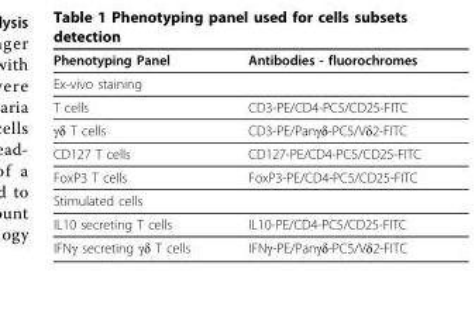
<table><thead><tr><td>Phenotyping Panel</td><td>Antibodies - fluorochromes</td></tr></thead><tbody><tr><td colspan="2">Ex-vivo staining</td></tr><tr><td>T cells</td><td>CD3-PE/CD4-PC5/CD25-FITC</td></tr><tr><td>γδ T cells</td><td>CD3-PE/Panγδ-PC5/Vδ2-FITC</td></tr><tr><td>CD127 T cells</td><td>CD127-PE/CD4-PC5/CD25-FITC</td></tr><tr><td>FoxP3 T cells</td><td>FoxP3-PE/CD4-PC5/CD25-FITC</td></tr><tr><td colspan="2">Stimulated cells</td></tr><tr><td>IL10 secreting T cells</td><td>IL10-PE/CD4-PC5/CD25-FITC</td></tr><tr><td>IFNγ secreting γδ T cells</td><td>IFNγ-PE/Panγδ-PC5/Vδ2-FITC</td></tr></tbody></table>